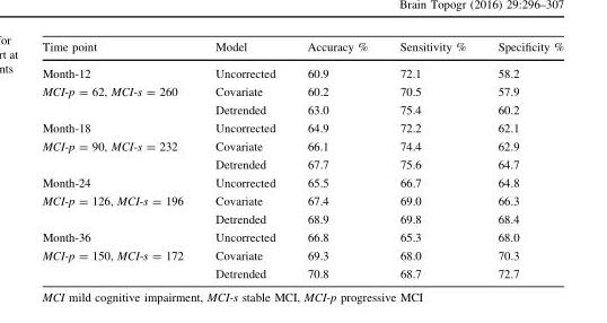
<table><thead><tr><td>Time point</td><td>Model</td><td>Accuracy %</td><td>Sensitivity %</td><td>Specificity %</td></tr></thead><tbody><tr><td rowspan="3">Month-12 MCI-p = 62, MCI-s = 260</td><td>Uncorrected</td><td>60.9</td><td>72.1</td><td>58.2</td></tr><tr><td>Covariate</td><td>60.2</td><td>70.5</td><td>57.9</td></tr><tr><td>Detrended</td><td>63.0</td><td>75.4</td><td>60.2</td></tr><tr><td rowspan="3">Month-18 MCI-p = 90, MCI-s = 232</td><td>Uncorrected</td><td>64.9</td><td>72.2</td><td>62.1</td></tr><tr><td>Covariate</td><td>66.1</td><td>74.4</td><td>62.9</td></tr><tr><td>Detrended</td><td>67.7</td><td>75.6</td><td>64.7</td></tr><tr><td rowspan="3">Month-24 MCI-p = 126, MCI-s = 196</td><td>Uncorrected</td><td>65.5</td><td>66.7</td><td>64.8</td></tr><tr><td>Covariate</td><td>67.4</td><td>69.0</td><td>66.3</td></tr><tr><td>Detrended</td><td>68.9</td><td>69.8</td><td>68.4</td></tr><tr><td rowspan="3">Month-36 MCI-p = 150, MCI-s = 172</td><td>Uncorrected</td><td>66.8</td><td>65.3</td><td>68.0</td></tr><tr><td>Covariate</td><td>69.3</td><td>68.0</td><td>70.3</td></tr><tr><td>Detrended</td><td>70.8</td><td>68.7</td><td>72.7</td></tr></tbody></table>